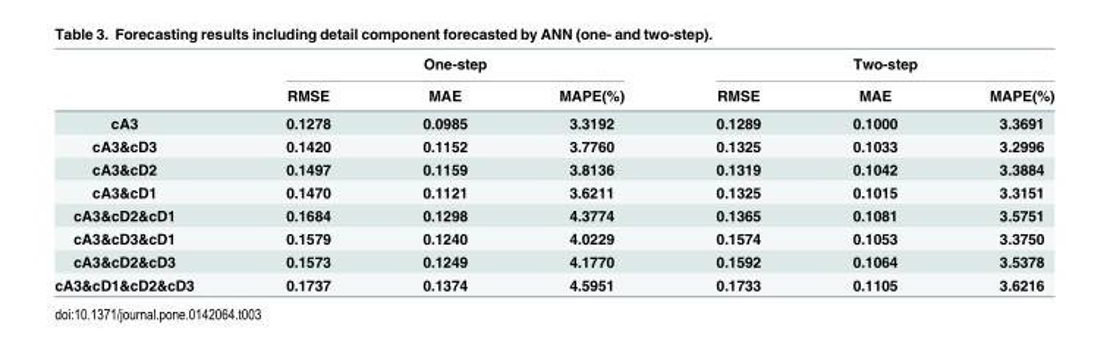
<table><thead><tr><td rowspan="2"></td><td colspan="3">One-step</td><td colspan="3">Two-step</td></tr><tr><td>RMSE</td><td>MAE</td><td>MAPE(%)</td><td>RMSE</td><td>MAE</td><td>MAPE(%)</td></tr></thead><tbody><tr><td>cA3</td><td>0.1278</td><td>0.0985</td><td>3.3192</td><td>0.1289</td><td>0.1000</td><td>3.3691</td></tr><tr><td>cA3&amp;cD3</td><td>0.1420</td><td>0.1152</td><td>3.7760</td><td>0.1325</td><td>0.1033</td><td>3.2996</td></tr><tr><td>cA3&amp;cD2</td><td>0.1497</td><td>0.1159</td><td>3.8136</td><td>0.1319</td><td>0.1042</td><td>3.3884</td></tr><tr><td>cA3&amp;cD1</td><td>0.1470</td><td>0.1121</td><td>3.6211</td><td>0.1325</td><td>0.1015</td><td>3.3151</td></tr><tr><td>cA3&amp;cD2&amp;cD1</td><td>0.1684</td><td>0.1298</td><td>4.3774</td><td>0.1365</td><td>0.1081</td><td>3.5751</td></tr><tr><td>cA3&amp;cD3&amp;cD1</td><td>0.1579</td><td>0.1240</td><td>4.0229</td><td>0.1574</td><td>0.1053</td><td>3.3750</td></tr><tr><td>cA3&amp;cD2&amp;cD3</td><td>0.1573</td><td>0.1249</td><td>4.1770</td><td>0.1592</td><td>0.1064</td><td>3.5378</td></tr><tr><td>cA3&amp;cD1&amp;cD2&amp;cD3</td><td>0.1737</td><td>0.1374</td><td>4.5951</td><td>0.1733</td><td>0.1105</td><td>3.6216</td></tr></tbody></table>